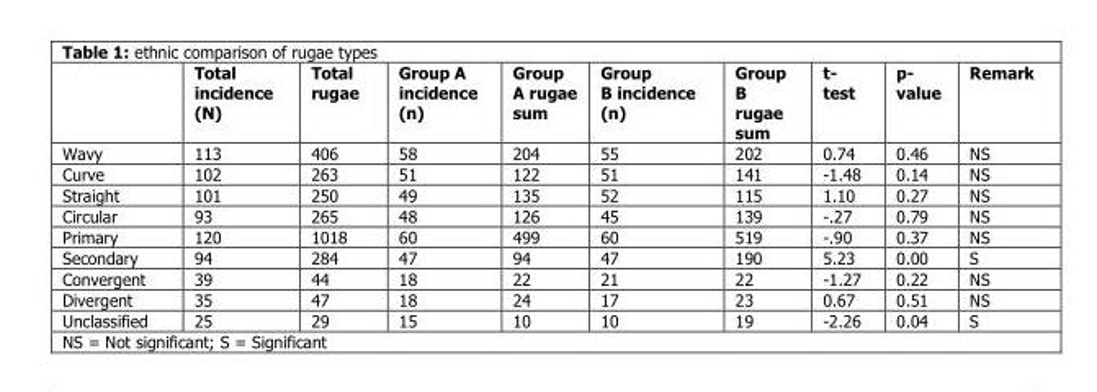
<table><thead><tr><td></td><td>Total incidence (N)</td><td>Total rugae</td><td>Group A incidence (n)</td><td>Group A rugae sum</td><td>Group B incidence (n)</td><td>Group B rugae sum</td><td>t- test</td><td>p- value</td><td>Remark</td></tr></thead><tbody><tr><td>Wavy</td><td>113</td><td>406</td><td>58</td><td>204</td><td>55</td><td>202</td><td>0.74</td><td>0.46</td><td>NS</td></tr><tr><td>Curve</td><td>102</td><td>263</td><td>51</td><td>122</td><td>51</td><td>141</td><td>-1.48</td><td>0.14</td><td>NS</td></tr><tr><td>Straight</td><td>101</td><td>250</td><td>49</td><td>135</td><td>52</td><td>115</td><td>1.10</td><td>0.27</td><td>NS</td></tr><tr><td>Circular</td><td>93</td><td>265</td><td>48</td><td>126</td><td>45</td><td>139</td><td>-.27</td><td>0.79</td><td>NS</td></tr><tr><td>Primary</td><td>120</td><td>1018</td><td>60</td><td>499</td><td>60</td><td>519</td><td>-.90</td><td>0.37</td><td>NS</td></tr><tr><td>Secondary</td><td>94</td><td>284</td><td>47</td><td>94</td><td>47</td><td>190</td><td>5.23</td><td>0.00</td><td>S</td></tr><tr><td>Convergent</td><td>39</td><td>44</td><td>18</td><td>22</td><td>21</td><td>22</td><td>-1.27</td><td>0.22</td><td>NS</td></tr><tr><td>Divergent</td><td>35</td><td>47</td><td>18</td><td>24</td><td>17</td><td>23</td><td>0.67</td><td>0.51</td><td>NS</td></tr><tr><td>Unclassified</td><td>25</td><td>29</td><td>15</td><td>10</td><td>10</td><td>19</td><td>-2.26</td><td>0.04</td><td>S</td></tr></tbody></table>